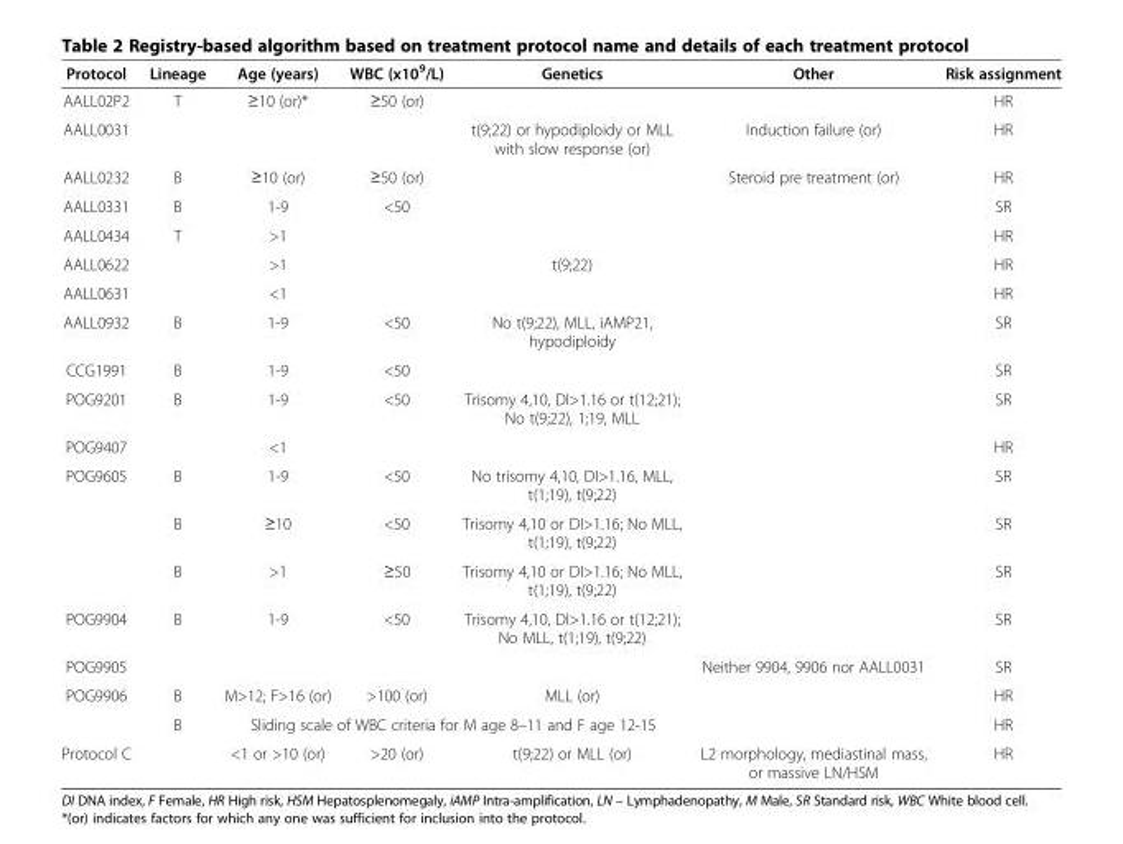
<table><thead><tr><td>Protocol</td><td>Lineage</td><td>Age (years)</td><td>WBC (x10<sup>9</sup>/L)</td><td>Genetics</td><td>Other</td><td>Risk assignment</td></tr></thead><tbody><tr><td>AALL02P2</td><td>T</td><td>≥10 (or)*</td><td>≥50 (or)</td><td></td><td></td><td>HR</td></tr><tr><td>AALL0031</td><td></td><td></td><td></td><td>t(9;22) or hypodiploidy or MLL with slow response (or)</td><td>Induction failure (or)</td><td>HR</td></tr><tr><td>AALL0232</td><td>B</td><td>≥10 (or)</td><td>≥50 (or)</td><td></td><td>Steroid pre treatment (or)</td><td>HR</td></tr><tr><td>AALL0331</td><td>B</td><td>1-9</td><td>&lt;50</td><td></td><td></td><td>SR</td></tr><tr><td>AALL0434</td><td>T</td><td>&gt;1</td><td></td><td></td><td></td><td>HR</td></tr><tr><td>AALL0622</td><td></td><td>&gt;1</td><td></td><td>t(9;22)</td><td></td><td>HR</td></tr><tr><td>AALL0631</td><td></td><td>&lt;1</td><td></td><td></td><td></td><td>HR</td></tr><tr><td>AALL0932</td><td>B</td><td>1-9</td><td>&lt;50</td><td>No t(9;22), MLL, iAMP21, hypodiploidy</td><td></td><td>SR</td></tr><tr><td>CCG1991</td><td>B</td><td>1-9</td><td>&lt;50</td><td></td><td></td><td>SR</td></tr><tr><td>POG9201</td><td>B</td><td>1-9</td><td>&lt;50</td><td>Trisomy 4,10, DI&gt;1.16 or t(12;21); No t(9;22), 1;19, MLL</td><td></td><td>SR</td></tr><tr><td>POG9407</td><td></td><td>&lt;1</td><td></td><td></td><td></td><td>HR</td></tr><tr><td rowspan="3">POG9605</td><td>B</td><td>1-9</td><td>&lt;50</td><td>No trisomy 4,10, DI&gt;1.16, MLL, t(1;19), t(9;22)</td><td></td><td>SR</td></tr><tr><td>B</td><td>≥10</td><td>&lt;50</td><td>Trisomy 4,10 or DI&gt;1.16; No MLL, t(1;19), t(9;22)</td><td></td><td>SR</td></tr><tr><td>B</td><td>&gt;1</td><td>≥50</td><td>Trisomy 4,10 or DI&gt;1.16; No MLL, t(1;19), t(9;22)</td><td></td><td>SR</td></tr><tr><td>POG9904</td><td>B</td><td>1-9</td><td>&lt;50</td><td>Trisomy 4,10, DI&gt;1.16 or t(12;21); No MLL, t(1;19), t(9;22)</td><td></td><td>SR</td></tr><tr><td>POG9905</td><td></td><td></td><td></td><td></td><td>Neither 9904, 9906 nor AALL0031</td><td>SR</td></tr><tr><td rowspan="2">POG9906</td><td>B</td><td>M&gt;12; F&gt;16 (or)</td><td>&gt;100 (or)</td><td>MLL (or)</td><td></td><td>HR</td></tr><tr><td>B</td><td colspan="3">Sliding scale of WBC criteria for M age 8–11 and F age 12-15</td><td></td><td>HR</td></tr><tr><td>Protocol C</td><td></td><td>&lt;1 or &gt;10 (or)</td><td>&gt;20 (or)</td><td>t(9;22) or MLL (or)</td><td>L2 morphology, mediastinal mass, or massive LN/HSM</td><td>HR</td></tr></tbody></table>